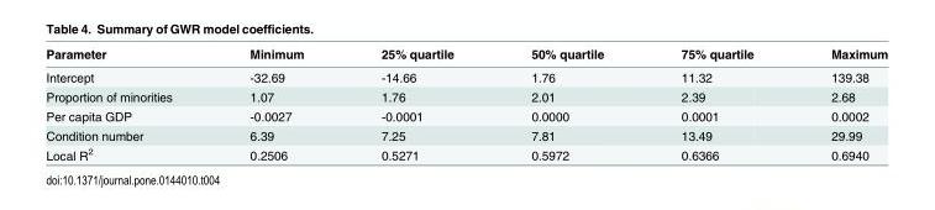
<table><thead><tr><td>Parameter</td><td>Minimum</td><td>25% quartile</td><td>50% quartile</td><td>75% quartile</td><td>Maximum</td></tr></thead><tbody><tr><td>Intercept</td><td>-32.69</td><td>-14.66</td><td>1.76</td><td>11.32</td><td>139.38</td></tr><tr><td>Proportion of minorities</td><td>1.07</td><td>1.76</td><td>2.01</td><td>2.39</td><td>2.68</td></tr><tr><td>Per capita GDP</td><td>-0.0027</td><td>-0.0001</td><td>0.0000</td><td>0.0001</td><td>0.0002</td></tr><tr><td>Condition number</td><td>6.39</td><td>7.25</td><td>7.81</td><td>13.49</td><td>29.99</td></tr><tr><td>Local R<sup>2</sup></td><td>0.2506</td><td>0.5271</td><td>0.5972</td><td>0.6366</td><td>0.6940</td></tr></tbody></table>